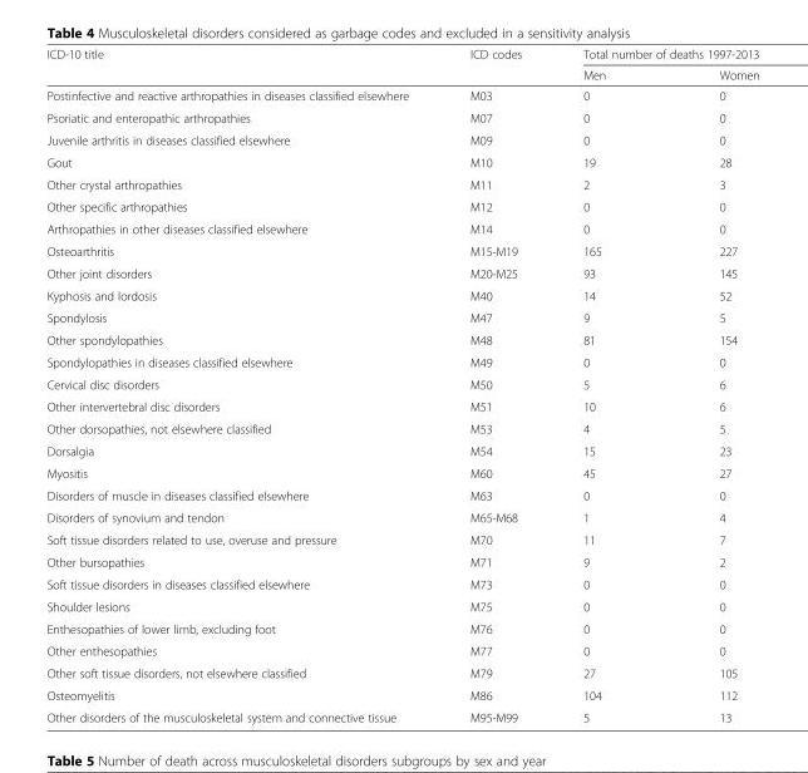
<table><thead><tr><td rowspan="2">ICD-10 title</td><td rowspan="2">ICD codes</td><td colspan="2">Total number of deaths 1997-2013</td></tr><tr><td>Men</td><td>Women</td></tr></thead><tbody><tr><td>Postinfective and reactive arthropathies in diseases classified elsewhere</td><td>M03</td><td>0</td><td>0</td></tr><tr><td>Psoriatic and enteropathic arthropathies</td><td>M07</td><td>0</td><td>0</td></tr><tr><td>Juvenile arthritis in diseases classified elsewhere</td><td>M09</td><td>0</td><td>0</td></tr><tr><td>Gout</td><td>M10</td><td>19</td><td>28</td></tr><tr><td>Other crystal arthropathies</td><td>M11</td><td>2</td><td>3</td></tr><tr><td>Other specific arthropathies</td><td>M12</td><td>0</td><td>0</td></tr><tr><td>Arthropathies in other diseases classified elsewhere</td><td>M14</td><td>0</td><td>0</td></tr><tr><td>Osteoarthritis</td><td>M15-M19</td><td>165</td><td>227</td></tr><tr><td>Other joint disorders</td><td>M20-M25</td><td>93</td><td>145</td></tr><tr><td>Kyphosis and lordosis</td><td>M40</td><td>14</td><td>52</td></tr><tr><td>Spondylosis</td><td>M47</td><td>9</td><td>5</td></tr><tr><td>Other spondylopathies</td><td>M48</td><td>81</td><td>154</td></tr><tr><td>Spondylopathies in diseases classified elsewhere</td><td>M49</td><td>0</td><td>0</td></tr><tr><td>Cervical disc disorders</td><td>M50</td><td>5</td><td>6</td></tr><tr><td>Other intervertebral disc disorders</td><td>M51</td><td>10</td><td>6</td></tr><tr><td>Other dorsopathies, not elsewhere classified</td><td>M53</td><td>4</td><td>5</td></tr><tr><td>Dorsalgia</td><td>M54</td><td>15</td><td>23</td></tr><tr><td>Myositis</td><td>M60</td><td>45</td><td>27</td></tr><tr><td>Disorders of muscle in diseases classified elsewhere</td><td>M63</td><td>0</td><td>0</td></tr><tr><td>Disorders of synovium and tendon</td><td>M65-M68</td><td>1</td><td>4</td></tr><tr><td>Soft tissue disorders related to use, overuse and pressure</td><td>M70</td><td>11</td><td>7</td></tr><tr><td>Other bursopathies</td><td>M71</td><td>9</td><td>2</td></tr><tr><td>Soft tissue disorders in diseases classified elsewhere</td><td>M73</td><td>0</td><td>0</td></tr><tr><td>Shoulder lesions</td><td>M75</td><td>0</td><td>0</td></tr><tr><td>Enthesopathies of lower limb, excluding foot</td><td>M76</td><td>0</td><td>0</td></tr><tr><td>Other enthesopathies</td><td>M77</td><td>0</td><td>0</td></tr><tr><td>Other soft tissue disorders, not elsewhere classified</td><td>M79</td><td>27</td><td>105</td></tr><tr><td>Osteomyelitis</td><td>M86</td><td>104</td><td>112</td></tr><tr><td>Other disorders of the musculoskeletal system and connective tissue</td><td>M95-M99</td><td>5</td><td>13</td></tr></tbody></table>